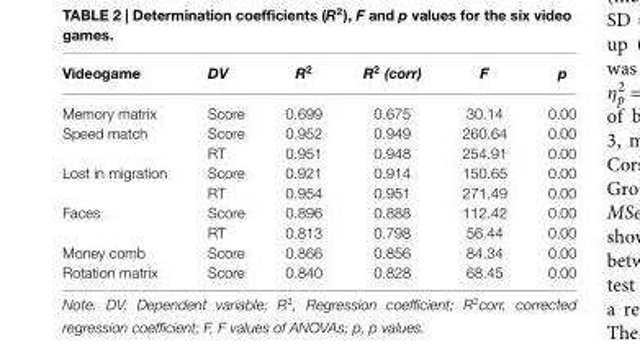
<table><thead><tr><td>Videogame</td><td>DV</td><td>R<sup>2</sup></td><td>R<sup>2</sup> (corr)</td><td>F</td><td>p</td></tr></thead><tbody><tr><td>Memory matrix</td><td>Score</td><td>0.699</td><td>0.675</td><td>30.14</td><td>0.00</td></tr><tr><td rowspan="2">Speed match</td><td>Score</td><td>0.952</td><td>0.949</td><td>260.64</td><td>0.00</td></tr><tr><td>RT</td><td>0.951</td><td>0.948</td><td>254.91</td><td>0.00</td></tr><tr><td rowspan="2">Lost in migration</td><td>Score</td><td>0.921</td><td>0.914</td><td>150.65</td><td>0.00</td></tr><tr><td>RT</td><td>0.954</td><td>0.951</td><td>271.49</td><td>0.00</td></tr><tr><td rowspan="2">Faces</td><td>Score</td><td>0.896</td><td>0.888</td><td>112.42</td><td>0.00</td></tr><tr><td>RT</td><td>0.813</td><td>0.798</td><td>56.44</td><td>0.00</td></tr><tr><td>Money comb</td><td>Score</td><td>0.866</td><td>0.856</td><td>84.34</td><td>0.00</td></tr><tr><td>Rotation matrix</td><td>Score</td><td>0.840</td><td>0.828</td><td>68.45</td><td>0.00</td></tr></tbody></table>